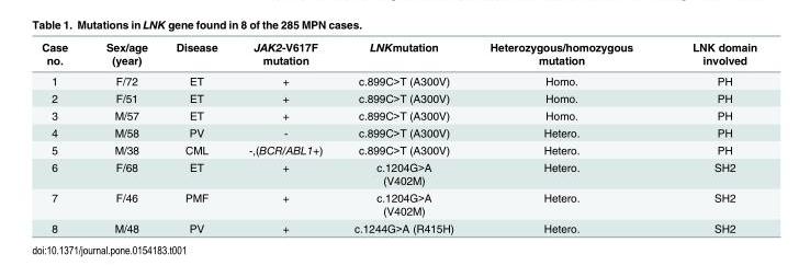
<table><thead><tr><td>Case no.</td><td>Sex/age (year)</td><td>Disease</td><td>JAK2-V617F mutation</td><td>LNKmutation</td><td>Heterozygous/homozygous mutation</td><td>LNK domain involved</td></tr></thead><tbody><tr><td>1</td><td>F/72</td><td>ET</td><td>+</td><td>c.899C&gt;T (A300V)</td><td>Homo.</td><td>PH</td></tr><tr><td>2</td><td>F/51</td><td>ET</td><td>+</td><td>c.899C&gt;T (A300V)</td><td>Homo.</td><td>PH</td></tr><tr><td>3</td><td>M/57</td><td>ET</td><td>+</td><td>c.899C&gt;T (A300V)</td><td>Homo.</td><td>PH</td></tr><tr><td>4</td><td>M/58</td><td>PV</td><td>-</td><td>c.899C&gt;T (A300V)</td><td>Hetero.</td><td>PH</td></tr><tr><td>5</td><td>M/38</td><td>CML</td><td>-,(BCR/ABL1+)</td><td>c.899C&gt;T (A300V)</td><td>Hetero.</td><td>PH</td></tr><tr><td>6</td><td>F/68</td><td>ET</td><td>+</td><td>c.1204G&gt;A (V402M)</td><td>Hetero.</td><td>SH2</td></tr><tr><td>7</td><td>F/46</td><td>PMF</td><td>+</td><td>c.1204G&gt;A (V402M)</td><td>Hetero.</td><td>SH2</td></tr><tr><td>8</td><td>M/48</td><td>PV</td><td>+</td><td>c.1244G&gt;A (R415H)</td><td>Hetero.</td><td>SH2</td></tr></tbody></table>